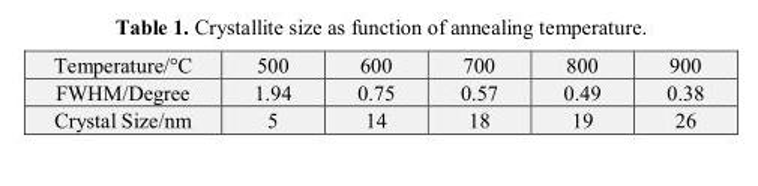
<table><tbody><tr><td>Temperature/°C</td><td>500</td><td>600</td><td>700</td><td>800</td><td>900</td></tr><tr><td>FWHM/Degree</td><td>1.94</td><td>0.75</td><td>0.57</td><td>0.49</td><td>0.38</td></tr><tr><td>Crystal Size/nm</td><td>5</td><td>14</td><td>18</td><td>19</td><td>26</td></tr></tbody></table>